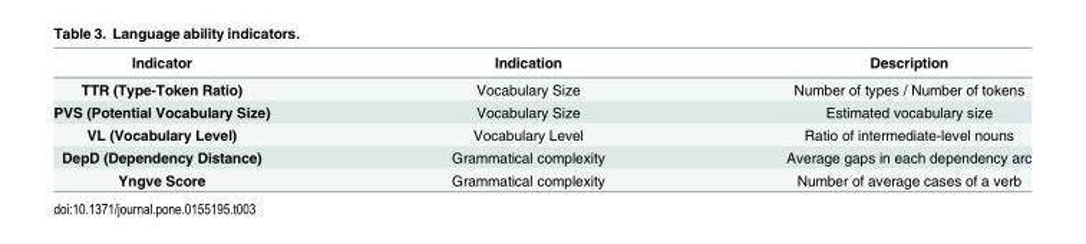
<table><thead><tr><td>Indicator</td><td>Indication</td><td>Description</td></tr></thead><tbody><tr><td>TTR (Type-Token Ratio)</td><td>Vocabulary Size</td><td>Number of types / Number of tokens</td></tr><tr><td>PVS (Potential Vocabulary Size)</td><td>Vocabulary Size</td><td>Estimated vocabulary size</td></tr><tr><td>VL (Vocabulary Level)</td><td>Vocabulary Level</td><td>Ratio of intermediate-level nouns</td></tr><tr><td>DepD (Dependency Distance)</td><td>Grammatical complexity</td><td>Average gaps in each dependency arc</td></tr><tr><td>Yngve Score</td><td>Grammatical complexity</td><td>Number of average cases of a verb</td></tr></tbody></table>